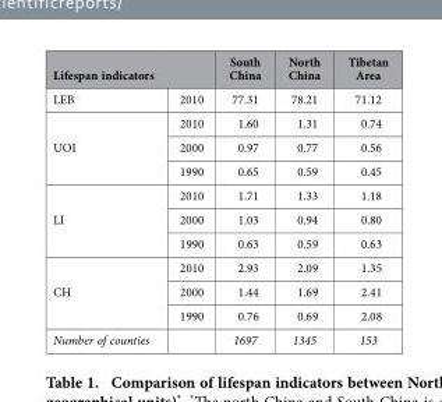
<table><thead><tr><td colspan="2">Lifespan indicators</td><td rowspan="2">South China 77.31</td><td rowspan="2">North China 78.21</td><td rowspan="2">Tibetan Area 71.12</td></tr><tr><td>LEB</td><td>2010</td></tr></thead><tbody><tr><td rowspan="3">UOI</td><td>2010</td><td>1.60</td><td>1.31</td><td>0.74</td></tr><tr><td>2000</td><td>0.97</td><td>0.77</td><td>0.56</td></tr><tr><td>1990</td><td>0.65</td><td>0.59</td><td>0.45</td></tr><tr><td rowspan="3">LI</td><td>2010</td><td>1.71</td><td>1.33</td><td>1.18</td></tr><tr><td>2000</td><td>1.03</td><td>0.94</td><td>0.80</td></tr><tr><td>1990</td><td>0.63</td><td>0.59</td><td>0.63</td></tr><tr><td rowspan="3">CH</td><td>2010</td><td>2.93</td><td>2.09</td><td>1.35</td></tr><tr><td>2000</td><td>1.44</td><td>1.69</td><td>2.41</td></tr><tr><td>1990</td><td>0.76</td><td>0.69</td><td>2.08</td></tr><tr><td>Number of counties</td><td></td><td>1697</td><td>1345</td><td>153</td></tr></tbody></table>